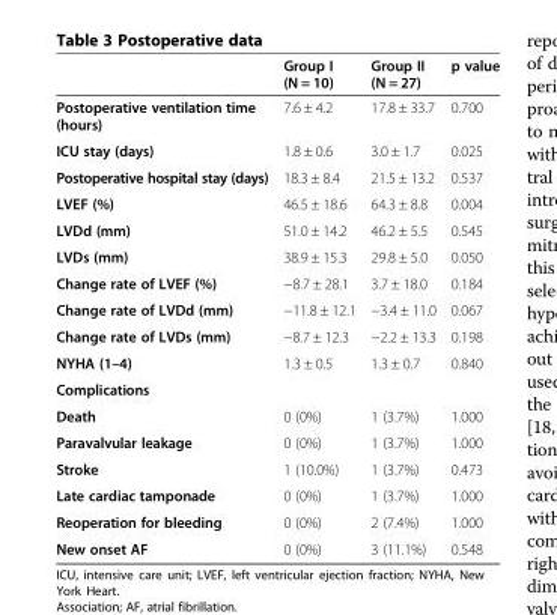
<table><thead><tr><td></td><td>Group I (N = 10)</td><td>Group II (N = 27)</td><td>p value</td></tr></thead><tbody><tr><td>Postoperative ventilation time (hours)</td><td>7.6 ± 4.2</td><td>17.8 ± 33.7</td><td>0.700</td></tr><tr><td>ICU stay (days)</td><td>1.8 ± 0.6</td><td>3.0 ± 1.7</td><td>0.025</td></tr><tr><td>Postoperative hospital stay (days)</td><td>18.3 ± 8.4</td><td>21.5 ± 13.2</td><td>0.537</td></tr><tr><td>LVEF (%)</td><td>46.5 ± 18.6</td><td>64.3 ± 8.8</td><td>0.004</td></tr><tr><td>LVDd (mm)</td><td>51.0 ± 14.2</td><td>46.2 ± 5.5</td><td>0.545</td></tr><tr><td>LVDs (mm)</td><td>38.9 ± 15.3</td><td>29.8 ± 5.0</td><td>0.050</td></tr><tr><td>Change rate of LVEF (%)</td><td>−8.7 ± 28.1</td><td>3.7 ± 18.0</td><td>0.184</td></tr><tr><td>Change rate of LVDd (mm)</td><td>−11.8 ± 12.1</td><td>−3.4 ± 11.0</td><td>0.067</td></tr><tr><td>Change rate of LVDs (mm)</td><td>−8.7 ± 12.3</td><td>−2.2 ± 13.3</td><td>0.198</td></tr><tr><td>NYHA (1–4)</td><td>1.3 ± 0.5</td><td>1.3 ± 0.7</td><td>0.840</td></tr><tr><td colspan="4">Complications</td></tr><tr><td>Death</td><td>0 (0%)</td><td>1 (3.7%)</td><td>1.000</td></tr><tr><td>Paravalvular leakage</td><td>0 (0%)</td><td>1 (3.7%)</td><td>1.000</td></tr><tr><td>Stroke</td><td>1 (10.0%)</td><td>1 (3.7%)</td><td>0.473</td></tr><tr><td>Late cardiac tamponade</td><td>0 (0%)</td><td>1 (3.7%)</td><td>1.000</td></tr><tr><td>Reoperation for bleeding</td><td>0 (0%)</td><td>2 (7.4%)</td><td>1.000</td></tr><tr><td>New onset AF</td><td>0 (0%)</td><td>3 (11.1%)</td><td>0.548</td></tr></tbody></table>